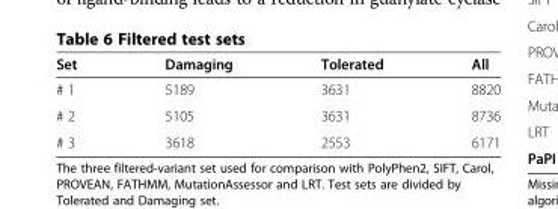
<table><thead><tr><td>Set</td><td>Damaging</td><td>Tolerated</td><td>All</td></tr></thead><tbody><tr><td># 1</td><td>5189</td><td>3631</td><td>8820</td></tr><tr><td># 2</td><td>5105</td><td>3631</td><td>8736</td></tr><tr><td># 3</td><td>3618</td><td>2553</td><td>6171</td></tr></tbody></table>